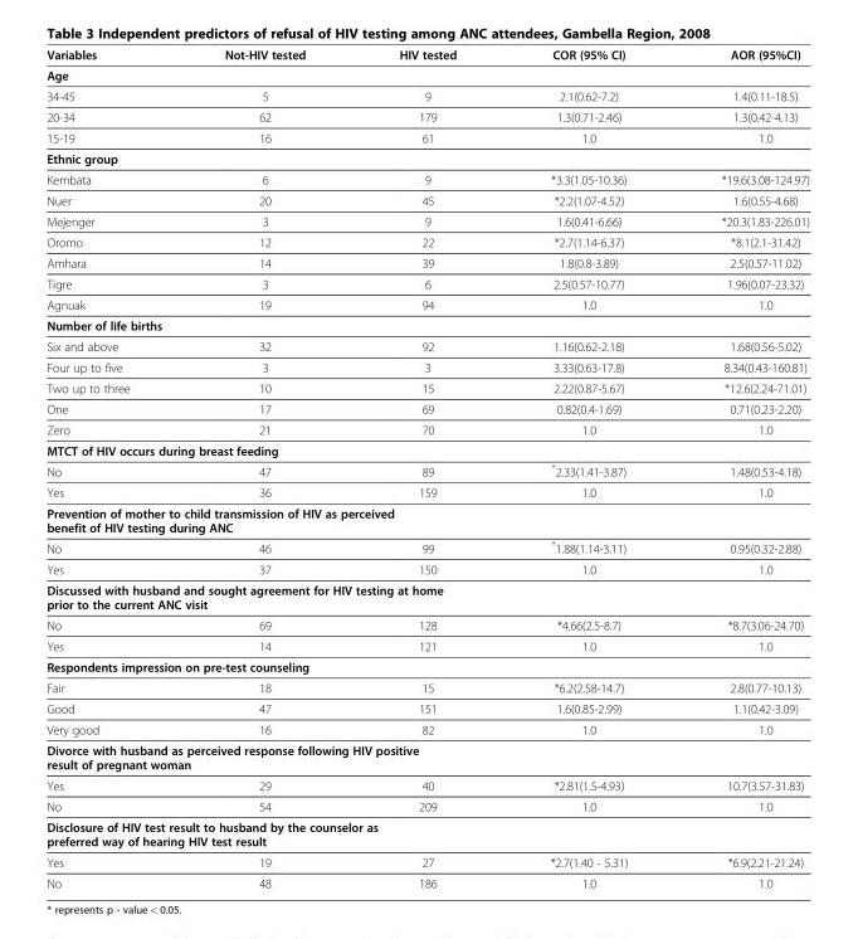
<table><thead><tr><td>Variables</td><td>Not-HIV tested</td><td>HIV tested</td><td>COR (95% CI)</td><td>AOR (95%CI)</td></tr></thead><tbody><tr><td colspan="5">Age</td></tr><tr><td>34-45</td><td>5</td><td>9</td><td>2.1(0.62-7.2)</td><td>1.4(0.11-18.5)</td></tr><tr><td>20-34</td><td>62</td><td>179</td><td>1.3(0.71-2.46)</td><td>1.3(0.42-4.13)</td></tr><tr><td>15-19</td><td>16</td><td>61</td><td>1.0</td><td>1.0</td></tr><tr><td colspan="5">Ethnic group</td></tr><tr><td>Kembata</td><td>6</td><td>9</td><td>*3.3(1.05-10.36)</td><td>*19.6(3.08-124.97)</td></tr><tr><td>Nuer</td><td>20</td><td>45</td><td>*2.2(1.07-4.52)</td><td>1.6(0.55-4.68)</td></tr><tr><td>Mejenger</td><td>3</td><td>9</td><td>1.6(0.41-6.66)</td><td>*20.3(1.83-226.01)</td></tr><tr><td>Oromo</td><td>12</td><td>22</td><td>*2.7(1.14-6.37)</td><td>*8.1(2.1-31.42)</td></tr><tr><td>Amhara</td><td>14</td><td>39</td><td>1.8(0.8-3.89)</td><td>2.5(0.57-11.02)</td></tr><tr><td>Tigre</td><td>3</td><td>6</td><td>2.5(0.57-10.77)</td><td>1.96(0.07-23.32)</td></tr><tr><td>Agnuak</td><td>19</td><td>94</td><td>1.0</td><td>1.0</td></tr><tr><td colspan="5">Number of life births</td></tr><tr><td>Six and above</td><td>32</td><td>92</td><td>1.16(0.62-2.18)</td><td>1.68(0.56-5.02)</td></tr><tr><td>Four up to five</td><td>3</td><td>3</td><td>3.33(0.63-17.8)</td><td>8.34(0.43-160.81)</td></tr><tr><td>Two up to three</td><td>10</td><td>15</td><td>2.22(0.87-5.67)</td><td>*12.6(2.24-71.01)</td></tr><tr><td>One</td><td>17</td><td>69</td><td>0.82(0.4-1.69)</td><td>0.71(0.23-2.20)</td></tr><tr><td>Zero</td><td>21</td><td>70</td><td>1.0</td><td>1.0</td></tr><tr><td colspan="5">MTCT of HIV occurs during breast feeding</td></tr><tr><td>No</td><td>47</td><td>89</td><td>*2.33(1.41-3.87)</td><td>1.48(0.53-4.18)</td></tr><tr><td>Yes</td><td>36</td><td>159</td><td>1.0</td><td>1.0</td></tr><tr><td colspan="5">Prevention of mother to child transmission of HIV as perceived benefit of HIV testing during ANC</td></tr><tr><td>No</td><td>46</td><td>99</td><td>*1.88(1.14-3.11)</td><td>0.95(0.32-2.88)</td></tr><tr><td>Yes</td><td>37</td><td>150</td><td>1.0</td><td>1.0</td></tr><tr><td colspan="5">Discussed with husband and sought agreement for HIV testing at home prior to the current ANC visit</td></tr><tr><td>No</td><td>69</td><td>128</td><td>*4.66(2.5-8.7)</td><td>*8.7(3.06-24.70)</td></tr><tr><td>Yes</td><td>14</td><td>121</td><td>1.0</td><td>1.0</td></tr><tr><td colspan="5">Respondents impression on pre-test counseling</td></tr><tr><td>Fair</td><td>18</td><td>15</td><td>*6.2(2.58-14.7)</td><td>2.8(0.77-10.13)</td></tr><tr><td>Good</td><td>47</td><td>151</td><td>1.6(0.85-2.99)</td><td>1.1(0.42-3.09)</td></tr><tr><td>Very good</td><td>16</td><td>82</td><td>1.0</td><td>1.0</td></tr><tr><td colspan="5">Divorce with husband as perceived response following HIV positive result of pregnant woman</td></tr><tr><td>Yes</td><td>29</td><td>40</td><td>*2.81(1.5-4.93)</td><td>10.7(3.57-31.83)</td></tr><tr><td>No</td><td>54</td><td>209</td><td>1.0</td><td>1.0</td></tr><tr><td colspan="5">Disclosure of HIV test result to husband by the counselor as preferred way of hearing HIV test result</td></tr><tr><td>Yes</td><td>19</td><td>27</td><td>*2.7(1.40 - 5.31)</td><td>*6.9(2.21-21.24)</td></tr><tr><td>No</td><td>48</td><td>186</td><td>1.0</td><td>1.0</td></tr></tbody></table>